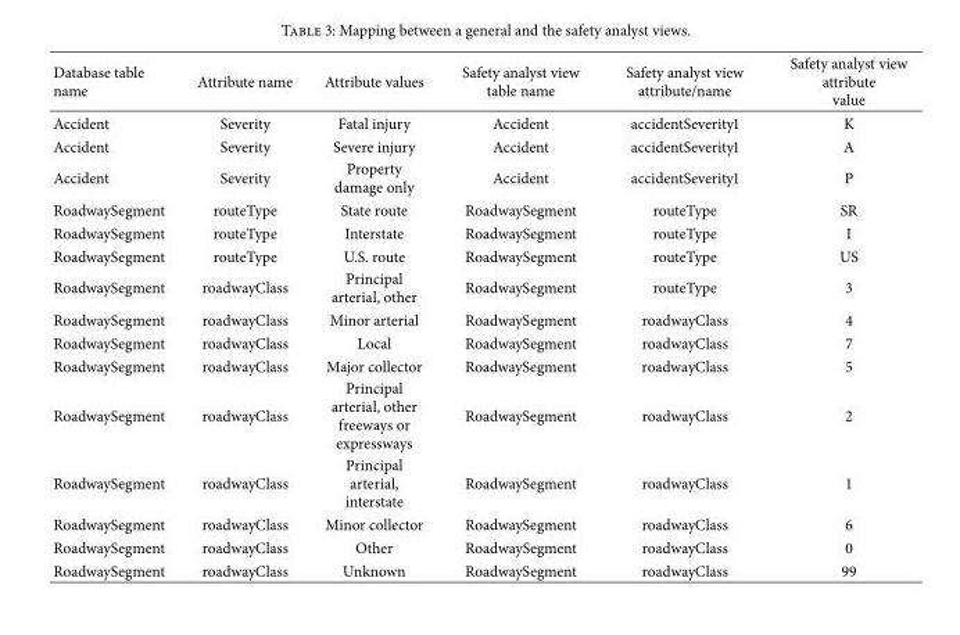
<table><thead><tr><td>Database table name</td><td>Attribute name</td><td>Attribute values</td><td>Safety analyst view table name</td><td>Safety analyst view attribute/name</td><td>Safety analyst view attribute value</td></tr></thead><tbody><tr><td>Accident</td><td>Severity</td><td>Fatal injury</td><td>Accident</td><td>accidentSeverity1</td><td>K</td></tr><tr><td>Accident</td><td>Severity</td><td>Severe injury</td><td>Accident</td><td>accidentSeverity1</td><td>A</td></tr><tr><td>Accident</td><td>Severity</td><td>Property damage only</td><td>Accident</td><td>accidentSeverity1</td><td>P</td></tr><tr><td>RoadwaySegment</td><td>routeType</td><td>State route</td><td>RoadwaySegment</td><td>routeType</td><td>SR</td></tr><tr><td>RoadwaySegment</td><td>routeType</td><td>Interstate</td><td>RoadwaySegment</td><td>routeType</td><td>I</td></tr><tr><td>RoadwaySegment</td><td>routeType</td><td>U.S. route</td><td>RoadwaySegment</td><td>routeType</td><td>US</td></tr><tr><td>RoadwaySegment</td><td>roadwayClass</td><td>Principal arterial, other</td><td>RoadwaySegment</td><td>routeType</td><td>3</td></tr><tr><td>RoadwaySegment</td><td>roadwayClass</td><td>Minor arterial</td><td>RoadwaySegment</td><td>roadwayClass</td><td>4</td></tr><tr><td>RoadwaySegment</td><td>roadwayClass</td><td>Local</td><td>RoadwaySegment</td><td>roadwayClass</td><td>7</td></tr><tr><td>RoadwaySegment</td><td>roadwayClass</td><td>Major collector</td><td>RoadwaySegment</td><td>roadwayClass</td><td>5</td></tr><tr><td>RoadwaySegment</td><td>roadwayClass</td><td>Principal arterial, other freeways or expressways</td><td>RoadwaySegment</td><td>roadwayClass</td><td>2</td></tr><tr><td>RoadwaySegment</td><td>roadwayClass</td><td>Principal arterial, interstate</td><td>RoadwaySegment</td><td>roadwayClass</td><td>1</td></tr><tr><td>RoadwaySegment</td><td>roadwayClass</td><td>Minor collector</td><td>RoadwaySegment</td><td>roadwayClass</td><td>6</td></tr><tr><td>RoadwaySegment</td><td>roadwayClass</td><td>Other</td><td>RoadwaySegment</td><td>roadwayClass</td><td>0</td></tr><tr><td>RoadwaySegment</td><td>roadwayClass</td><td>Unknown</td><td>RoadwaySegment</td><td>roadwayClass</td><td>99</td></tr></tbody></table>